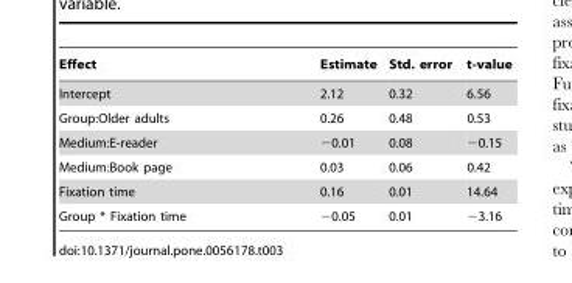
<table><thead><tr><td>Effect</td><td>Estimate</td><td>Std. error</td><td>t-value</td></tr></thead><tbody><tr><td>Intercept</td><td>2.12</td><td>0.32</td><td>6.56</td></tr><tr><td>Group:Older adults</td><td>0.26</td><td>0.48</td><td>0.53</td></tr><tr><td>Medium:E-reader</td><td>−0.01</td><td>0.08</td><td>−0.15</td></tr><tr><td>Medium:Book page</td><td>0.03</td><td>0.06</td><td>0.42</td></tr><tr><td>Fixation time</td><td>0.16</td><td>0.01</td><td>14.64</td></tr><tr><td>Group * Fixation time</td><td>−0.05</td><td>0.01</td><td>−3.16</td></tr></tbody></table>